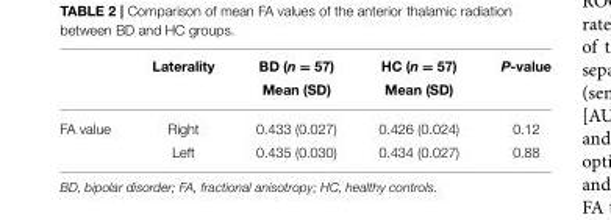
<table><thead><tr><td rowspan="2"></td><td rowspan="2">Laterality</td><td rowspan="2">BD (n = 57) Mean (SD)</td><td rowspan="2">HC (n = 57) Mean (SD)</td><td rowspan="2">P-value</td></tr><tr></tr></thead><tbody><tr><td rowspan="2">FA value</td><td>Right</td><td>0.433 (0.027)</td><td>0.426 (0.024)</td><td>0.12</td></tr><tr><td>Left</td><td>0.435 (0.030)</td><td>0.434 (0.027)</td><td>0.88</td></tr></tbody></table>